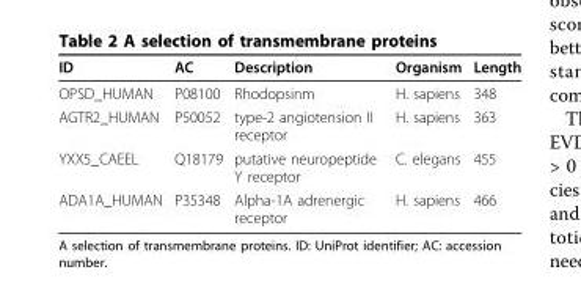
<table><thead><tr><td>ID</td><td>AC</td><td>Description</td><td>Organism</td><td>Length</td></tr></thead><tbody><tr><td>OPSD_HUMAN</td><td>P08100</td><td>Rhodopsinm</td><td>H. sapiens</td><td>348</td></tr><tr><td>AGTR2_HUMAN</td><td>P50052</td><td>type-2 angiotension II receptor</td><td>H. sapiens</td><td>363</td></tr><tr><td>YXX5_CAEEL</td><td>Q18179</td><td>putative neuropeptide Y receptor</td><td>C. elegans</td><td>455</td></tr><tr><td>ADA1A_HUMAN</td><td>P35348</td><td>Alpha-1A adrenergic receptor</td><td>H. sapiens</td><td>466</td></tr></tbody></table>